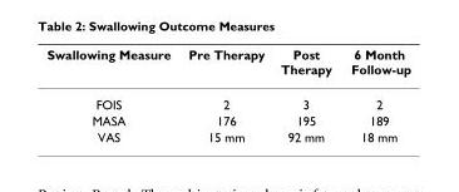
<table><thead><tr><td>Swallowing Measure</td><td>Pre Therapy</td><td>Post Therapy</td><td>6 Month Follow-up</td></tr></thead><tbody><tr><td>FOIS</td><td>2</td><td>3</td><td>2</td></tr><tr><td>MASA</td><td>176</td><td>195</td><td>189</td></tr><tr><td>VAS</td><td>15 mm</td><td>92 mm</td><td>18 mm</td></tr></tbody></table>